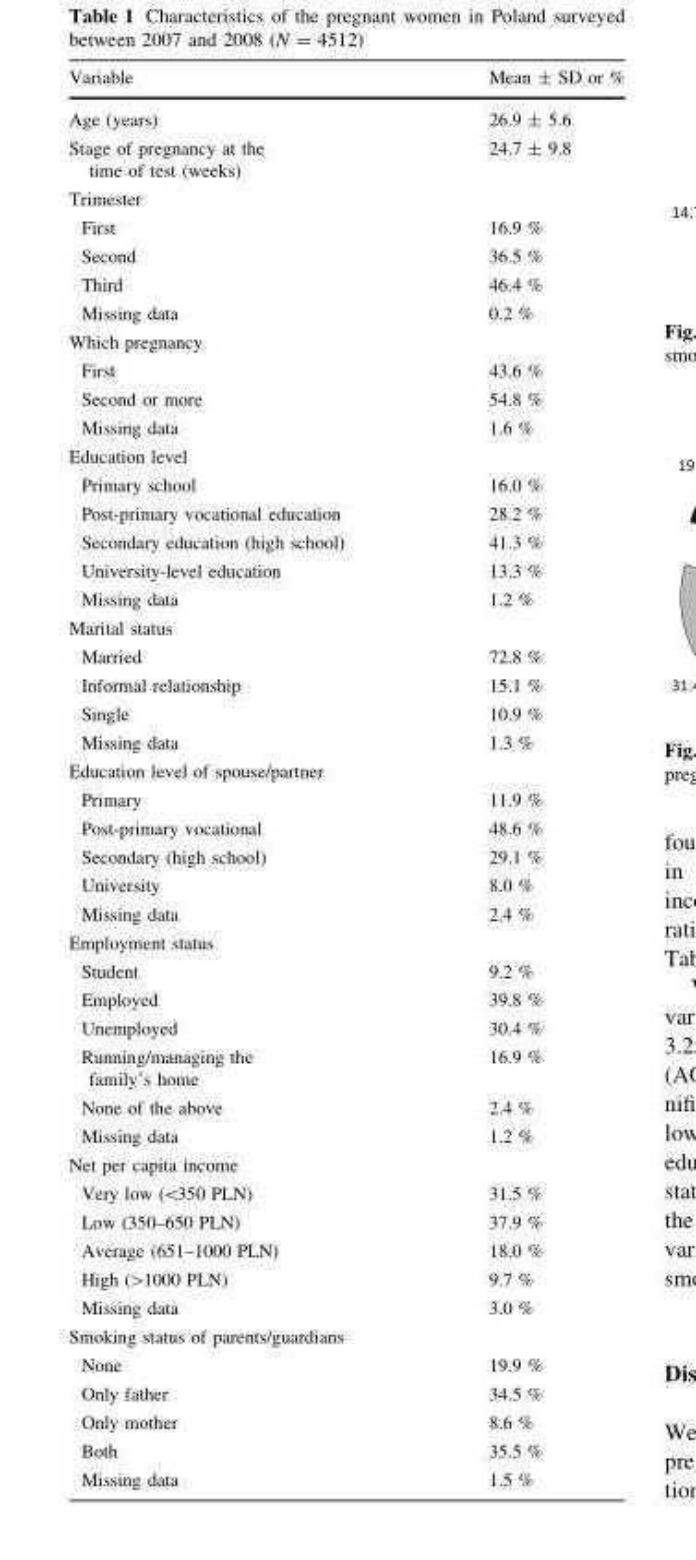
<table><thead><tr><td>Variable</td><td>Mean ± SD or %</td></tr></thead><tbody><tr><td>Age (years)</td><td>26.9 ± 5.6</td></tr><tr><td>Stage of pregnancy at the time of test (weeks)</td><td>24.7 ± 9.8</td></tr><tr><td colspan="2">Trimester</td></tr><tr><td>First</td><td>16.9 %</td></tr><tr><td>Second</td><td>36.5 %</td></tr><tr><td>Third</td><td>46.4 %</td></tr><tr><td>Missing data</td><td>0.2 %</td></tr><tr><td colspan="2">Which pregnancy</td></tr><tr><td>First</td><td>43.6 %</td></tr><tr><td>Second or more</td><td>54.8 %</td></tr><tr><td>Missing data</td><td>1.6 %</td></tr><tr><td colspan="2">Education level</td></tr><tr><td>Primary school</td><td>16.0 %</td></tr><tr><td>Post-primary vocational education</td><td>28.2 %</td></tr><tr><td>Secondary education (high school)</td><td>41.3 %</td></tr><tr><td>University-level education</td><td>13.3 %</td></tr><tr><td>Missing data</td><td>1.2 %</td></tr><tr><td colspan="2">Marital status</td></tr><tr><td>Married</td><td>72.8 %</td></tr><tr><td>Informal relationship</td><td>15.1 %</td></tr><tr><td>Single</td><td>10.9 %</td></tr><tr><td>Missing data</td><td>1.3 %</td></tr><tr><td colspan="2">Education level of spouse/partner</td></tr><tr><td>Primary</td><td>11.9 %</td></tr><tr><td>Post-primary vocational</td><td>48.6 %</td></tr><tr><td>Secondary (high school)</td><td>29.1 %</td></tr><tr><td>University</td><td>8.0 %</td></tr><tr><td>Missing data</td><td>2.4 %</td></tr><tr><td colspan="2">Employment status</td></tr><tr><td>Student</td><td>9.2 %</td></tr><tr><td>Employed</td><td>39.8 %</td></tr><tr><td>Unemployed</td><td>30.4 %</td></tr><tr><td>Running/managing the family’s home</td><td>16.9 %</td></tr><tr><td>None of the above</td><td>2.4 %</td></tr><tr><td>Missing data</td><td>1.2 %</td></tr><tr><td colspan="2">Net per capita income</td></tr><tr><td>Very low (&lt;350 PLN)</td><td>31.5 %</td></tr><tr><td>Low (350–650 PLN)</td><td>37.9 %</td></tr><tr><td>Average (651–1000 PLN)</td><td>18.0 %</td></tr><tr><td>High (&gt;1000 PLN)</td><td>9.7 %</td></tr><tr><td>Missing data</td><td>3.0 %</td></tr><tr><td colspan="2">Smoking status of parents/guardians</td></tr><tr><td>None</td><td>19.9 %</td></tr><tr><td>Only father</td><td>34.5 %</td></tr><tr><td>Only mother</td><td>8.6 %</td></tr><tr><td>Both</td><td>35.5 %</td></tr><tr><td>Missing data</td><td>1.5 %</td></tr></tbody></table>